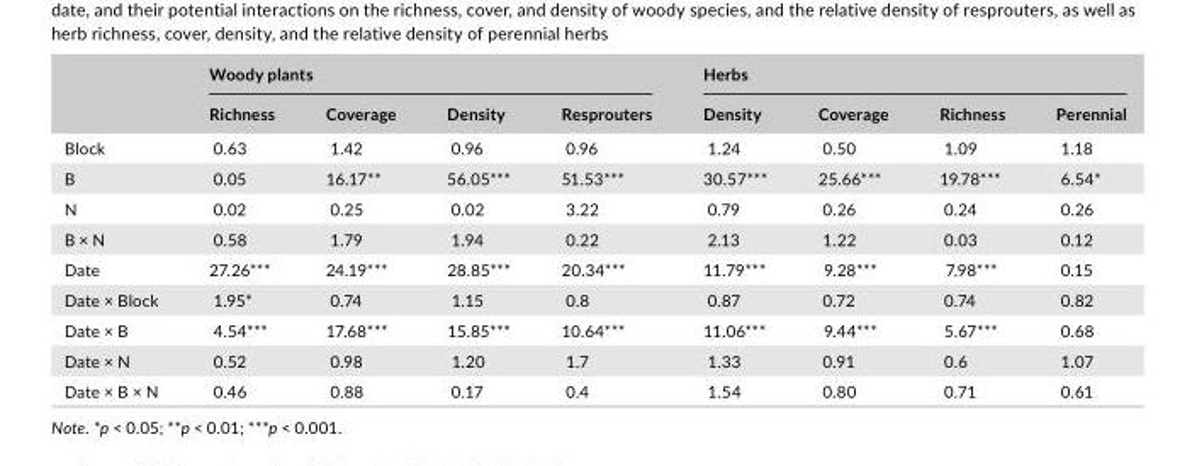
<table><thead><tr><td rowspan="2"></td><td colspan="4">Woody plants</td><td colspan="4">Herbs</td></tr><tr><td>Richness</td><td>Coverage</td><td>Density</td><td>Resprouters</td><td>Density</td><td>Coverage</td><td>Richness</td><td>Perennial</td></tr></thead><tbody><tr><td>Block</td><td>0.63</td><td>1.42</td><td>0.96</td><td>0.96</td><td>1.24</td><td>0.50</td><td>1.09</td><td>1.18</td></tr><tr><td>B</td><td>0.05</td><td>16.17**</td><td>56.05***</td><td>51.53***</td><td>30.57***</td><td>25.66***</td><td>19.78***</td><td>6.54*</td></tr><tr><td>N</td><td>0.02</td><td>0.25</td><td>0.02</td><td>3.22</td><td>0.79</td><td>0.26</td><td>0.24</td><td>0.26</td></tr><tr><td>B × N</td><td>0.58</td><td>1.79</td><td>1.94</td><td>0.22</td><td>2.13</td><td>1.22</td><td>0.03</td><td>0.12</td></tr><tr><td>Date</td><td>27.26***</td><td>24.19***</td><td>28.85***</td><td>20.34***</td><td>11.79***</td><td>9.28***</td><td>7.98***</td><td>0.15</td></tr><tr><td>Date × Block</td><td>1.95*</td><td>0.74</td><td>1.15</td><td>0.8</td><td>0.87</td><td>0.72</td><td>0.74</td><td>0.82</td></tr><tr><td>Date × B</td><td>4.54***</td><td>17.68***</td><td>15.85***</td><td>10.64***</td><td>11.06***</td><td>9.44***</td><td>5.67***</td><td>0.68</td></tr><tr><td>Date × N</td><td>0.52</td><td>0.98</td><td>1.20</td><td>1.7</td><td>1.33</td><td>0.91</td><td>0.6</td><td>1.07</td></tr><tr><td>Date × B × N</td><td>0.46</td><td>0.88</td><td>0.17</td><td>0.4</td><td>1.54</td><td>0.80</td><td>0.71</td><td>0.61</td></tr></tbody></table>